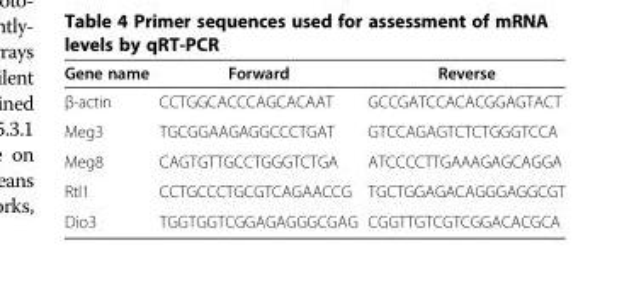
<table><thead><tr><td>Gene name</td><td>Forward</td><td>Reverse</td></tr></thead><tbody><tr><td>β-actin</td><td>CCTGGCACCCAGCACAAT</td><td>GCCGATCCACACGGAGTACT</td></tr><tr><td>Meg3</td><td>TGCGGAAGAGGCCCTGAT</td><td>GTCCAGAGTCTCTGGGTCCA</td></tr><tr><td>Meg8</td><td>CAGTGTTGCCTGGGTCTGA</td><td>ATCCCCTTGAAAGAGCAGGA</td></tr><tr><td>Rtl1</td><td>CCTGCCCTGCGTCAGAACCG</td><td>TGCTGGAGACAGGGAGGCGT</td></tr><tr><td>Dio3</td><td>TGGTGGTCGGAGAGGGCGAG</td><td>CGGTTGTCGTCGGACACGCA</td></tr></tbody></table>